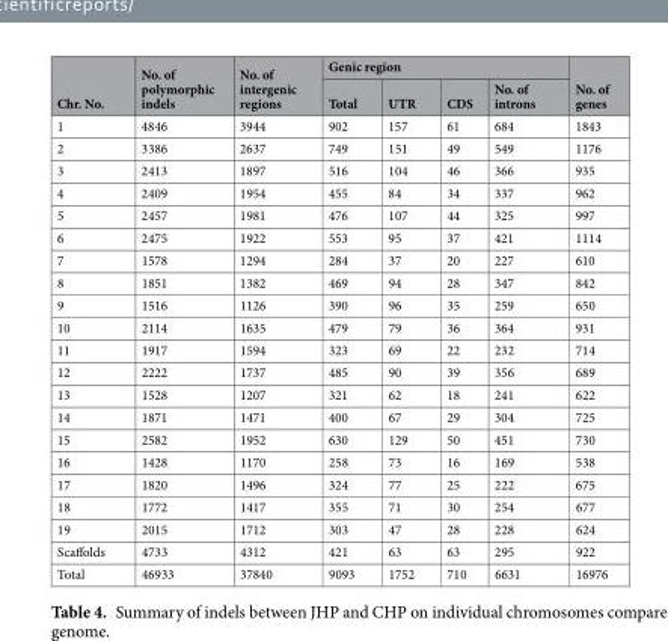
<table><thead><tr><td rowspan="2">Chr. No.</td><td rowspan="2">No. of polymorphic indels</td><td rowspan="2">No. of intergenic regions</td><td colspan="4">Genic region</td><td rowspan="2">No. of genes</td></tr><tr><td>Total</td><td>UTR</td><td>CDS</td><td>No. of introns</td></tr></thead><tbody><tr><td>1</td><td>4846</td><td>3944</td><td>902</td><td>157</td><td>61</td><td>684</td><td>1843</td></tr><tr><td>2</td><td>3386</td><td>2637</td><td>749</td><td>151</td><td>49</td><td>549</td><td>1176</td></tr><tr><td>3</td><td>2413</td><td>1897</td><td>516</td><td>104</td><td>46</td><td>366</td><td>935</td></tr><tr><td>4</td><td>2409</td><td>1954</td><td>455</td><td>84</td><td>34</td><td>337</td><td>962</td></tr><tr><td>5</td><td>2457</td><td>1981</td><td>476</td><td>107</td><td>44</td><td>325</td><td>997</td></tr><tr><td>6</td><td>2475</td><td>1922</td><td>553</td><td>95</td><td>37</td><td>421</td><td>1114</td></tr><tr><td>7</td><td>1578</td><td>1294</td><td>284</td><td>37</td><td>20</td><td>227</td><td>610</td></tr><tr><td>8</td><td>1851</td><td>1382</td><td>469</td><td>94</td><td>28</td><td>347</td><td>842</td></tr><tr><td>9</td><td>1516</td><td>1126</td><td>390</td><td>96</td><td>35</td><td>259</td><td>650</td></tr><tr><td>10</td><td>2114</td><td>1635</td><td>479</td><td>79</td><td>36</td><td>364</td><td>931</td></tr><tr><td>11</td><td>1917</td><td>1594</td><td>323</td><td>69</td><td>22</td><td>232</td><td>714</td></tr><tr><td>12</td><td>2222</td><td>1737</td><td>485</td><td>90</td><td>39</td><td>356</td><td>689</td></tr><tr><td>13</td><td>1528</td><td>1207</td><td>321</td><td>62</td><td>18</td><td>241</td><td>622</td></tr><tr><td>14</td><td>1871</td><td>1471</td><td>400</td><td>67</td><td>29</td><td>304</td><td>725</td></tr><tr><td>15</td><td>2582</td><td>1952</td><td>630</td><td>129</td><td>50</td><td>451</td><td>730</td></tr><tr><td>16</td><td>1428</td><td>1170</td><td>258</td><td>73</td><td>16</td><td>169</td><td>538</td></tr><tr><td>17</td><td>1820</td><td>1496</td><td>324</td><td>77</td><td>25</td><td>222</td><td>675</td></tr><tr><td>18</td><td>1772</td><td>1417</td><td>355</td><td>71</td><td>30</td><td>254</td><td>677</td></tr><tr><td>19</td><td>2015</td><td>1712</td><td>303</td><td>47</td><td>28</td><td>228</td><td>624</td></tr><tr><td>Scaffolds</td><td>4733</td><td>4312</td><td>421</td><td>63</td><td>63</td><td>295</td><td>922</td></tr><tr><td>Total</td><td>46933</td><td>37840</td><td>9093</td><td>1752</td><td>710</td><td>6631</td><td>16976</td></tr></tbody></table>